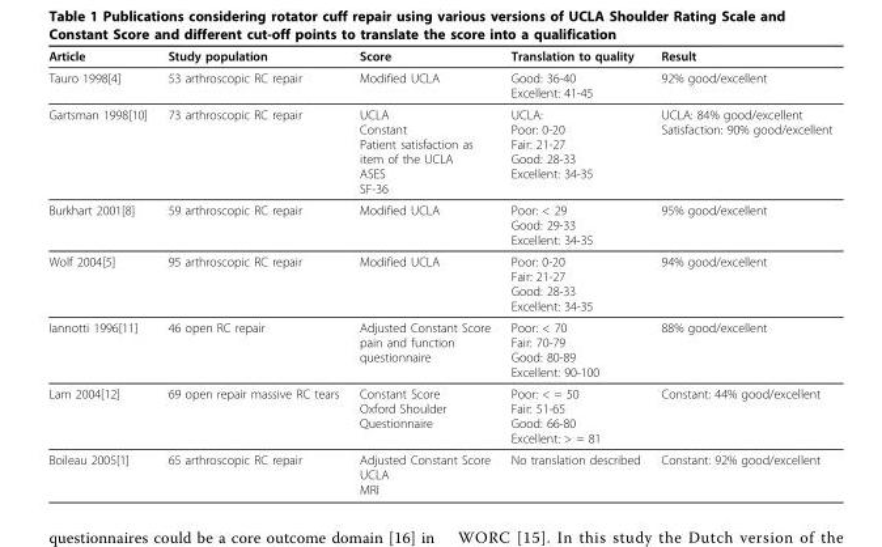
<table><thead><tr><td>Article</td><td>Study population</td><td>Score</td><td>Translation to quality</td><td>Result</td></tr></thead><tbody><tr><td>Tauro 1998[4]</td><td>53 arthroscopic RC repair</td><td>Modified UCLA</td><td>Good: 36-40 Excellent: 41-45</td><td>92% good/excellent</td></tr><tr><td>Gartsman 1998[10]</td><td>73 arthroscopic RC repair</td><td>UCLA Constant Patient satisfaction as item of the UCLA ASES SF-36</td><td>UCLA: Poor: 0-20 Fair: 21-27 Good: 28-33 Excellent: 34-35</td><td>UCLA: 84% good/excellent Satisfaction: 90% good/excellent</td></tr><tr><td>Burkhart 2001[8]</td><td>59 arthroscopic RC repair</td><td>Modified UCLA</td><td>Poor: &lt; 29 Good: 29-33 Excellent: 34-35</td><td>95% good/excellent</td></tr><tr><td>Wolf 2004[5]</td><td>95 arthroscopic RC repair</td><td>Modified UCLA</td><td>Poor: 0-20 Fair: 21-27 Good: 28-33 Excellent: 34-35</td><td>94% good/excellent</td></tr><tr><td>Iannotti 1996[11]</td><td>46 open RC repair</td><td>Adjusted Constant Score pain and function questionnaire</td><td>Poor: &lt; 70 Fair: 70-79 Good: 80-89 Excellent: 90-100</td><td>88% good/excellent</td></tr><tr><td>Lam 2004[12]</td><td>69 open repair massive RC tears</td><td>Constant Score Oxford Shoulder Questionnaire</td><td>Poor: &lt; = 50 Fair: 51-65 Good: 66-80 Excellent: &gt; = 81</td><td>Constant: 44% good/excellent</td></tr><tr><td>Boileau 2005[1]</td><td>65 arthroscopic RC repair</td><td>Adjusted Constant Score UCLA MRI</td><td>No translation described</td><td>Constant: 92% good/excellent</td></tr></tbody></table>